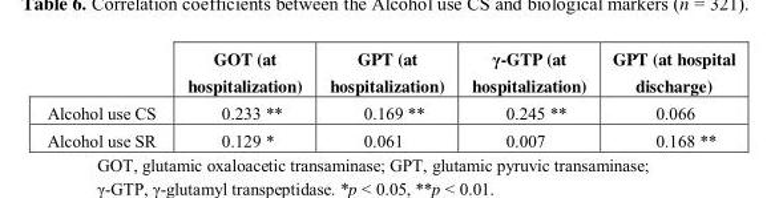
<table><thead><tr><td></td><td>GOT (at hospitalization)</td><td>GPT (at hospitalization)</td><td>γ-GTP (at hospitalization)</td><td>GPT (at hospital discharge)</td></tr></thead><tbody><tr><td>Alcohol use CS</td><td>0.233 **</td><td>0.169 **</td><td>0.245 **</td><td>0.066</td></tr><tr><td>Alcohol use SR</td><td>0.129 *</td><td>0.061</td><td>0.007</td><td>0.168 **</td></tr></tbody></table>